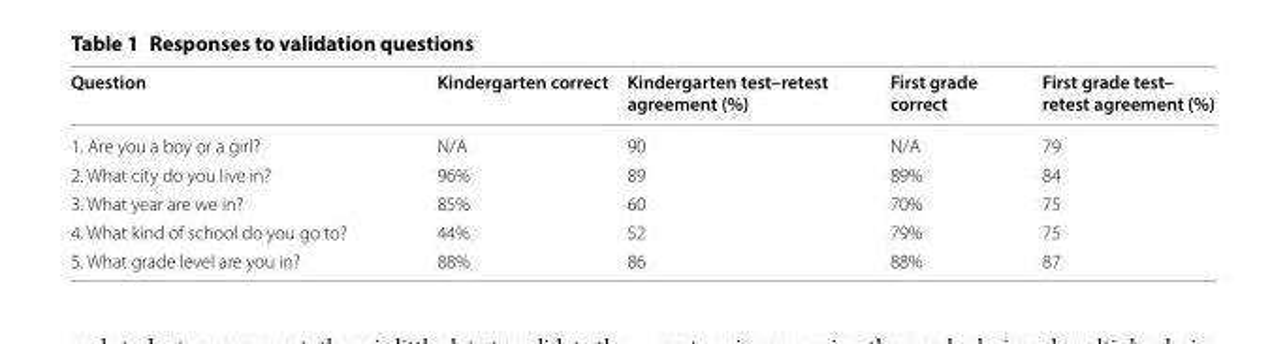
<table><thead><tr><td>Question</td><td>Kindergarten correct</td><td>Kindergarten test–retest agreement (%)</td><td>First grade correct</td><td>First grade test– retest agreement (%)</td></tr></thead><tbody><tr><td>1. Are you a boy or a girl?</td><td>N/A</td><td>90</td><td>N/A</td><td>79</td></tr><tr><td>2. What city do you live in?</td><td>96%</td><td>89</td><td>89%</td><td>84</td></tr><tr><td>3. What year are we in?</td><td>85%</td><td>60</td><td>70%</td><td>75</td></tr><tr><td>4. What kind of school do you go to?</td><td>44%</td><td>52</td><td>79%</td><td>75</td></tr><tr><td>5. What grade level are you in?</td><td>88%</td><td>86</td><td>88%</td><td>87</td></tr></tbody></table>